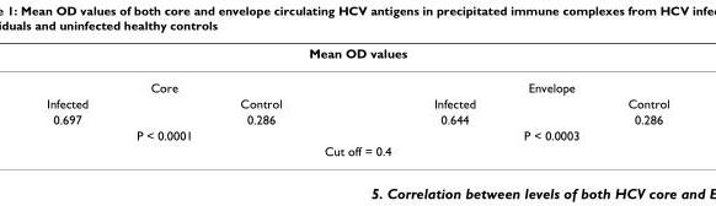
<table><thead><tr><td colspan="4">Mean OD values</td></tr><tr><td colspan="2">Core</td><td colspan="2">Envelope</td></tr><tr><td>Infected</td><td>Control</td><td>Infected</td><td>Control</td></tr></thead><tbody><tr><td>0.697</td><td>0.286</td><td>0.644</td><td>0.286</td></tr><tr><td colspan="2">P &lt; 0.0001</td><td colspan="2">P &lt; 0.0003</td></tr><tr><td colspan="4">Cut off = 0.4</td></tr></tbody></table>